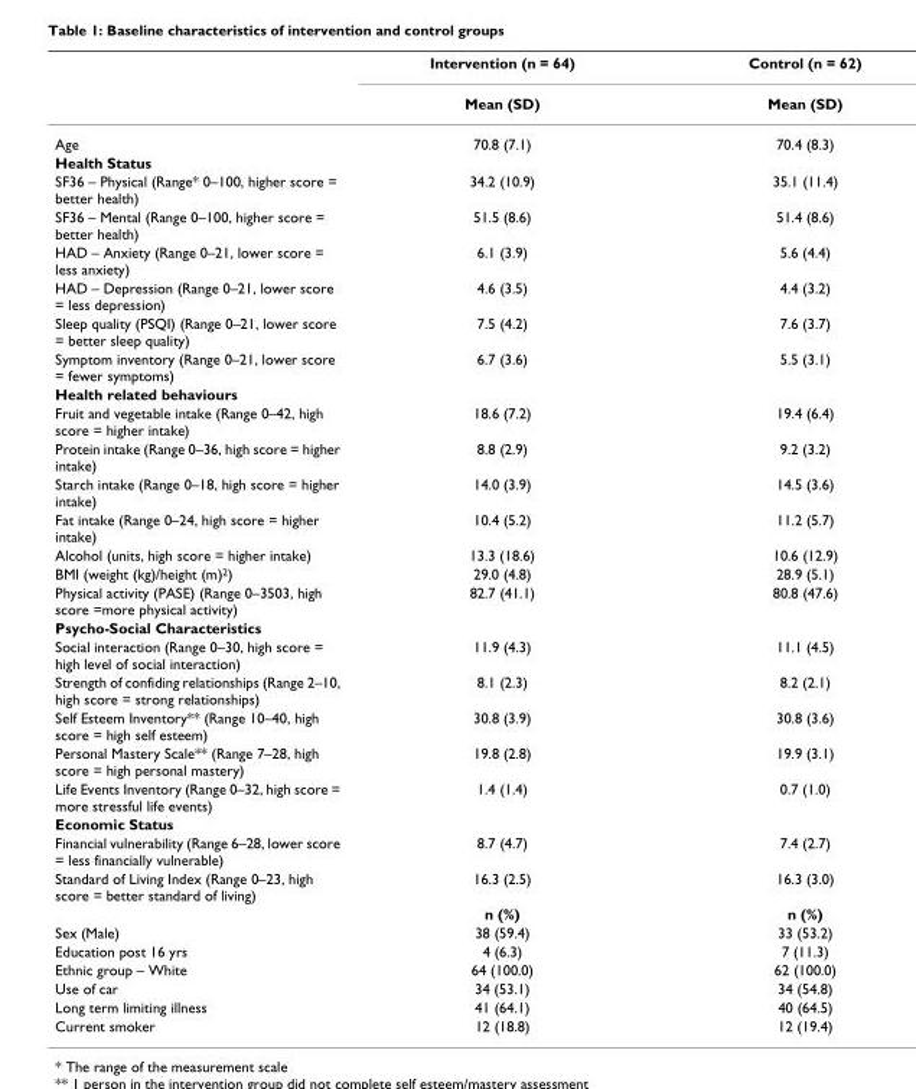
<table><thead><tr><td rowspan="2"></td><td rowspan="2">Intervention (n = 64) Mean (SD)</td><td rowspan="2">Control (n = 62) Mean (SD)</td></tr><tr></tr></thead><tbody><tr><td>Age</td><td>70.8 (7.1)</td><td>70.4 (8.3)</td></tr><tr><td colspan="3">Health Status</td></tr><tr><td>SF36 – Physical (Range* 0–100, higher score = better health)</td><td>34.2 (10.9)</td><td>35.1 (11.4)</td></tr><tr><td>SF36 – Mental (Range 0–100, higher score = better health)</td><td>51.5 (8.6)</td><td>51.4 (8.6)</td></tr><tr><td>HAD – Anxiety (Range 0–21, lower score = less anxiety)</td><td>6.1 (3.9)</td><td>5.6 (4.4)</td></tr><tr><td>HAD – Depression (Range 0–21, lower score = less depression)</td><td>4.6 (3.5)</td><td>4.4 (3.2)</td></tr><tr><td>Sleep quality (PSQI) (Range 0–21, lower score = better sleep quality)</td><td>7.5 (4.2)</td><td>7.6 (3.7)</td></tr><tr><td>Symptom inventory (Range 0–21, lower score = fewer symptoms)</td><td>6.7 (3.6)</td><td>5.5 (3.1)</td></tr><tr><td colspan="3">Health related behaviours</td></tr><tr><td>Fruit and vegetable intake (Range 0–42, high score = higher intake)</td><td>18.6 (7.2)</td><td>19.4 (6.4)</td></tr><tr><td>Protein intake (Range 0–36, high score = higher intake)</td><td>8.8 (2.9)</td><td>9.2 (3.2)</td></tr><tr><td>Starch intake (Range 0–18, high score = higher intake)</td><td>14.0 (3.9)</td><td>14.5 (3.6)</td></tr><tr><td>Fat intake (Range 0–24, high score = higher intake)</td><td>10.4 (5.2)</td><td>11.2 (5.7)</td></tr><tr><td>Alcohol (units, high score = higher intake)</td><td>13.3 (18.6)</td><td>10.6 (12.9)</td></tr><tr><td>BMI (weight (kg)/height (m)2)</td><td>29.0 (4.8)</td><td>28.9 (5.1)</td></tr><tr><td>Physical activity (PASE) (Range 0–3503, high score =more physical activity)</td><td>82.7 (41.1)</td><td>80.8 (47.6)</td></tr><tr><td colspan="3">Psycho-Social Characteristics</td></tr><tr><td>Social interaction (Range 0–30, high score = high level of social interaction)</td><td>11.9 (4.3)</td><td>11.1 (4.5)</td></tr><tr><td>Strength of confiding relationships (Range 2–10, high score = strong relationships)</td><td>8.1 (2.3)</td><td>8.2 (2.1)</td></tr><tr><td>Self Esteem Inventory** (Range 10–40, high score = high self esteem)</td><td>30.8 (3.9)</td><td>30.8 (3.6)</td></tr><tr><td>Personal Mastery Scale** (Range 7–28, high score = high personal mastery)</td><td>19.8 (2.8)</td><td>19.9 (3.1)</td></tr><tr><td>Life Events Inventory (Range 0–32, high score = more stressful life events)</td><td>1.4 (1.4)</td><td>0.7 (1.0)</td></tr><tr><td colspan="3">Economic Status</td></tr><tr><td>Financial vulnerability (Range 6–28, lower score = less financially vulnerable)</td><td>8.7 (4.7)</td><td>7.4 (2.7)</td></tr><tr><td rowspan="2">Standard of Living Index (Range 0–23, high score = better standard of living)</td><td>16.3 (2.5)</td><td>16.3 (3.0)</td></tr><tr><td>n (%)</td><td>n (%)</td></tr><tr><td>Sex (Male)</td><td>38 (59.4)</td><td>33 (53.2)</td></tr><tr><td>Education post 16 yrs</td><td>4 (6.3)</td><td>7 (11.3)</td></tr><tr><td>Ethnic group – White</td><td>64 (100.0)</td><td>62 (100.0)</td></tr><tr><td>Use of car</td><td>34 (53.1)</td><td>34 (54.8)</td></tr><tr><td>Long term limiting illness</td><td>41 (64.1)</td><td>40 (64.5)</td></tr><tr><td>Current smoker</td><td>12 (18.8)</td><td>12 (19.4)</td></tr></tbody></table>